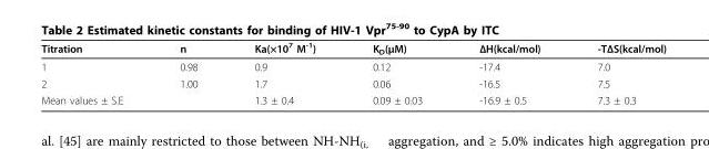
<table><thead><tr><td>Titration</td><td>n</td><td>Ka(×10<sup>7</sup> M<sup>-1</sup>)</td><td>K<sub>D</sub>(μM)</td><td>ΔH(kcal/mol)</td><td>-TΔS(kcal/mol)</td></tr></thead><tbody><tr><td>1</td><td>0.98</td><td>0.9</td><td>0.12</td><td>-17.4</td><td>7.0</td></tr><tr><td>2</td><td>1.00</td><td>1.7</td><td>0.06</td><td>-16.5</td><td>7.5</td></tr><tr><td>Mean values ± S.E</td><td></td><td>1.3 ± 0.4</td><td>0.09 ± 0.03</td><td>-16.9 ± 0.5</td><td>7.3 ± 0.3</td></tr></tbody></table>